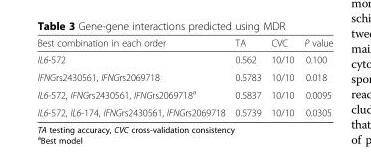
<table><thead><tr><td>Best combination in each order</td><td>TA</td><td>CVC</td><td>P value</td></tr></thead><tbody><tr><td>IL6-572</td><td>0.562</td><td>10/10</td><td>0.100</td></tr><tr><td>IFNGrs2430561, IFNGrs2069718</td><td>0.5783</td><td>10/10</td><td>0.018</td></tr><tr><td>IL6-572, IFNGrs2430561, IFNGrs2069718<sup>a</sup></td><td>0.5837</td><td>10/10</td><td>0.0095</td></tr><tr><td>IL6-572, IL6-174, IFNGrs2430561, IFNGrs2069718</td><td>0.5739</td><td>10/10</td><td>0.0305</td></tr></tbody></table>